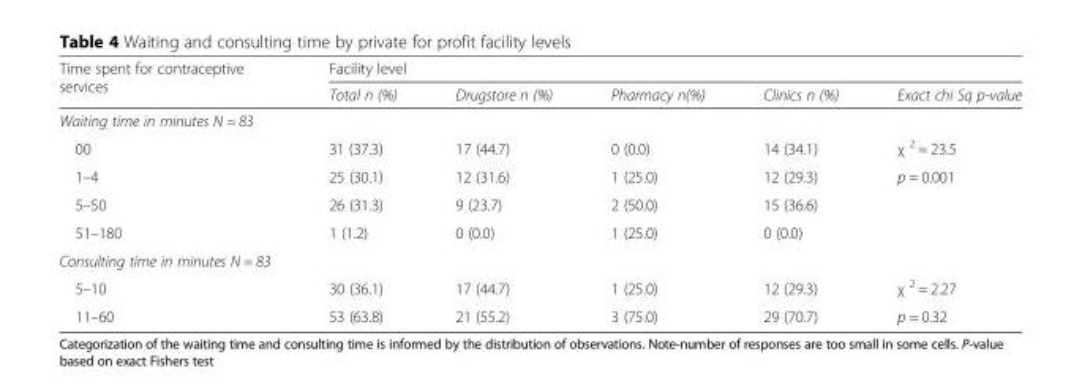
<table><thead><tr><td rowspan="2">Time spent for contraceptive services</td><td colspan="5">Facility level</td></tr><tr><td>Total n (%)</td><td>Drugstore n (%)</td><td>Pharmacy n(%)</td><td>Clinics n (%)</td><td>Exact chi Sq p-value</td></tr></thead><tbody><tr><td colspan="6">Waiting time in minutes N = 83</td></tr><tr><td>00</td><td>31 (37.3)</td><td>17 (44.7)</td><td>0 (0.0)</td><td>14 (34.1)</td><td>χ <sup>2</sup> = 23.5</td></tr><tr><td>1–4</td><td>25 (30.1)</td><td>12 (31.6)</td><td>1 (25.0)</td><td>12 (29.3)</td><td>p = 0.001</td></tr><tr><td>5–50</td><td>26 (31.3)</td><td>9 (23.7)</td><td>2 (50.0)</td><td>15 (36.6)</td><td></td></tr><tr><td>51–180</td><td>1 (1.2)</td><td>0 (0.0)</td><td>1 (25.0)</td><td>0 (0.0)</td><td></td></tr><tr><td colspan="6">Consulting time in minutes N = 83</td></tr><tr><td>5–10</td><td>30 (36.1)</td><td>17 (44.7)</td><td>1 (25.0)</td><td>12 (29.3)</td><td>χ <sup>2</sup> = 2.27</td></tr><tr><td>11–60</td><td>53 (63.8)</td><td>21 (55.2)</td><td>3 (75.0)</td><td>29 (70.7)</td><td>p = 0.32</td></tr></tbody></table>